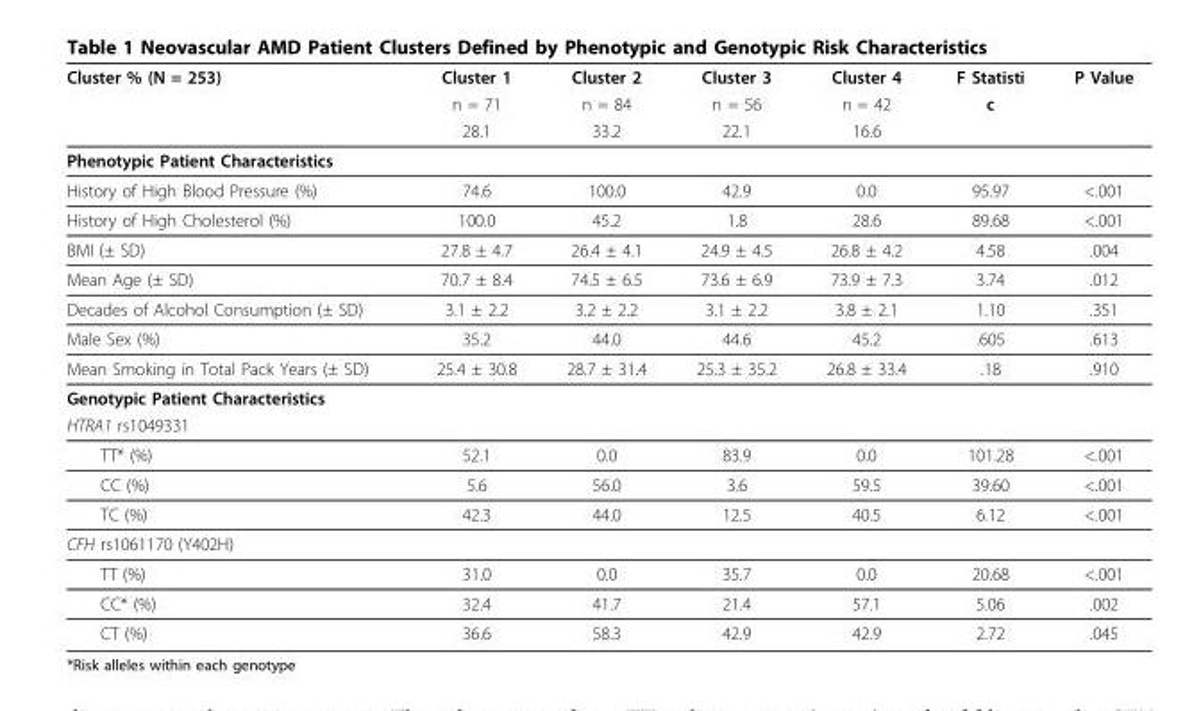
<table><thead><tr><td rowspan="3">Cluster % (N = 253)</td><td rowspan="3">Cluster 1 n = 71 28.1</td><td rowspan="3">Cluster 2 n = 84 33.2</td><td rowspan="3">Cluster 3 n = 56 22.1</td><td rowspan="3">Cluster 4 n = 42 16.6</td><td rowspan="3">F Statisti c</td><td rowspan="3">P Value</td></tr><tr></tr><tr></tr></thead><tbody><tr><td colspan="7">Phenotypic Patient Characteristics</td></tr><tr><td>History of High Blood Pressure (%)</td><td>74.6</td><td>100.0</td><td>42.9</td><td>0.0</td><td>95.97</td><td>&lt;.001</td></tr><tr><td>History of High Cholesterol (%)</td><td>100.0</td><td>45.2</td><td>1.8</td><td>28.6</td><td>89.68</td><td>&lt;.001</td></tr><tr><td>BMI (± SD)</td><td>27.8 ± 4.7</td><td>26.4 ± 4.1</td><td>24.9 ± 4.5</td><td>26.8 ± 4.2</td><td>4.58</td><td>.004</td></tr><tr><td>Mean Age (± SD)</td><td>70.7 ± 8.4</td><td>74.5 ± 6.5</td><td>73.6 ± 6.9</td><td>73.9 ± 7.3</td><td>3.74</td><td>.012</td></tr><tr><td>Decades of Alcohol Consumption (± SD)</td><td>3.1 ± 2.2</td><td>3.2 ± 2.2</td><td>3.1 ± 2.2</td><td>3.8 ± 2.1</td><td>1.10</td><td>.351</td></tr><tr><td>Male Sex (%)</td><td>35.2</td><td>44.0</td><td>44.6</td><td>45.2</td><td>.605</td><td>.613</td></tr><tr><td>Mean Smoking in Total Pack Years (± SD)</td><td>25.4 ± 30.8</td><td>28.7 ± 31.4</td><td>25.3 ± 35.2</td><td>26.8 ± 33.4</td><td>.18</td><td>.910</td></tr><tr><td colspan="7">Genotypic Patient Characteristics</td></tr><tr><td colspan="7">HTRA1 rs1049331</td></tr><tr><td>TT* (%)</td><td>52.1</td><td>0.0</td><td>83.9</td><td>0.0</td><td>101.28</td><td>&lt;.001</td></tr><tr><td>CC (%)</td><td>5.6</td><td>56.0</td><td>3.6</td><td>59.5</td><td>39.60</td><td>&lt;.001</td></tr><tr><td>TC (%)</td><td>42.3</td><td>44.0</td><td>12.5</td><td>40.5</td><td>6.12</td><td>&lt;.001</td></tr><tr><td colspan="7">CFH rs1061170 (Y402H)</td></tr><tr><td>TT (%)</td><td>31.0</td><td>0.0</td><td>35.7</td><td>0.0</td><td>20.68</td><td>&lt;.001</td></tr><tr><td>CC* (%)</td><td>32.4</td><td>41.7</td><td>21.4</td><td>57.1</td><td>5.06</td><td>.002</td></tr><tr><td>CT (%)</td><td>36.6</td><td>58.3</td><td>42.9</td><td>42.9</td><td>2.72</td><td>.045</td></tr></tbody></table>